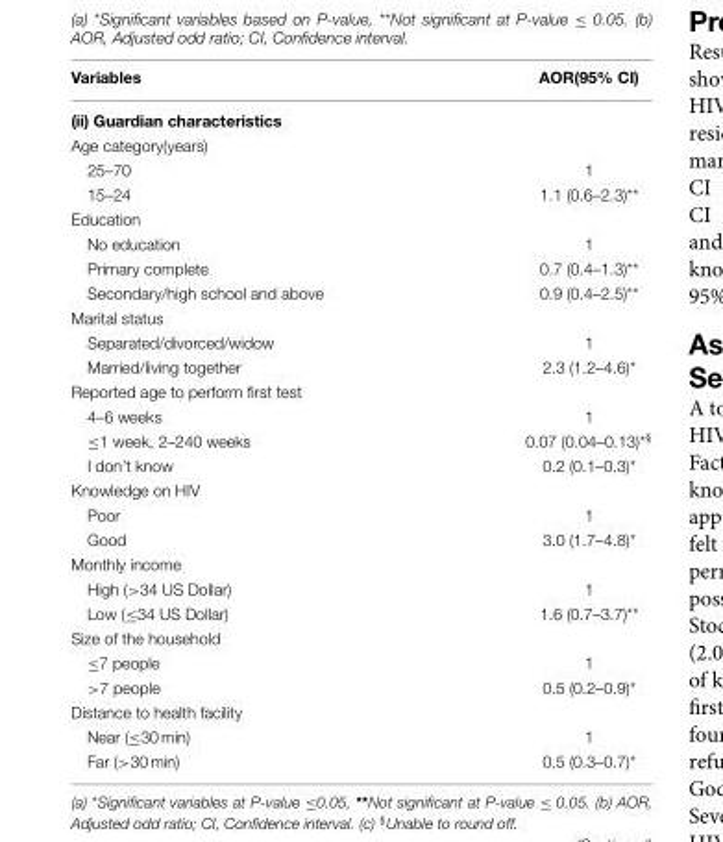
<table><thead><tr><td>Variables</td><td>AOR(95% CI)</td></tr></thead><tbody><tr><td colspan="2">(ii) Guardian characteristics</td></tr><tr><td colspan="2">Age category(years)</td></tr><tr><td>25–70</td><td>1</td></tr><tr><td>15–24</td><td>1.1 (0.6–2.3)**</td></tr><tr><td colspan="2">Education</td></tr><tr><td>No education</td><td>1</td></tr><tr><td>Primary complete</td><td>0.7 (0.4–1.3)**</td></tr><tr><td>Secondary/high school and above</td><td>0.9 (0.4–2.5)**</td></tr><tr><td colspan="2">Marital status</td></tr><tr><td>Separated/divorced/widow</td><td>1</td></tr><tr><td>Married/living together</td><td>2.3 (1.2–4.6)*</td></tr><tr><td colspan="2">Reported age to perform first test</td></tr><tr><td>4–6 weeks</td><td>1</td></tr><tr><td>≤1 week, 2–240 weeks</td><td>0.07 (0.04–0.13)<sup>*§</sup></td></tr><tr><td>I don’t know</td><td>0.2 (0.1–0.3)*</td></tr><tr><td colspan="2">Knowledge on HIV</td></tr><tr><td>Poor</td><td>1</td></tr><tr><td>Good</td><td>3.0 (1.7–4.8)*</td></tr><tr><td colspan="2">Monthly income</td></tr><tr><td>High (&gt;34 US Dollar)</td><td>1</td></tr><tr><td>Low (≤34 US Dollar)</td><td>1.6 (0.7–3.7)**</td></tr><tr><td colspan="2">Size of the household</td></tr><tr><td>≤7 people</td><td>1</td></tr><tr><td>&gt;7 people</td><td>0.5 (0.2–0.9)*</td></tr><tr><td colspan="2">Distance to health facility</td></tr><tr><td>Near (≤30 min)</td><td>1</td></tr><tr><td>Far (&gt;30 min)</td><td>0.5 (0.3–0.7)*</td></tr></tbody></table>